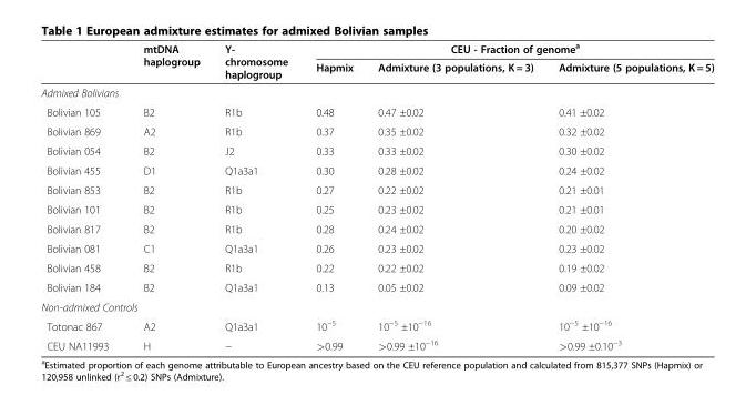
<table><thead><tr><td rowspan="2"></td><td rowspan="2">mtDNA haplogroup</td><td rowspan="2">Y- chromosome haplogroup</td><td colspan="3">CEU - Fraction of genome<sup>a</sup></td></tr><tr><td>Hapmix</td><td>Admixture (3 populations, K = 3)</td><td>Admixture (5 populations, K = 5)</td></tr></thead><tbody><tr><td colspan="6">Admixed Bolivians</td></tr><tr><td>Bolivian 105</td><td>B2</td><td>R1b</td><td>0.48</td><td>0.47 ±0.02</td><td>0.41 ±0.02</td></tr><tr><td>Bolivian 869</td><td>A2</td><td>R1b</td><td>0.37</td><td>0.35 ±0.02</td><td>0.32 ±0.02</td></tr><tr><td>Bolivian 054</td><td>B2</td><td>J2</td><td>0.33</td><td>0.33 ±0.02</td><td>0.30 ±0.02</td></tr><tr><td>Bolivian 455</td><td>D1</td><td>Q1a3a1</td><td>0.30</td><td>0.28 ±0.02</td><td>0.24 ±0.02</td></tr><tr><td>Bolivian 853</td><td>B2</td><td>R1b</td><td>0.27</td><td>0.22 ±0.02</td><td>0.21 ±0.01</td></tr><tr><td>Bolivian 101</td><td>B2</td><td>R1b</td><td>0.25</td><td>0.23 ±0.02</td><td>0.21 ±0.01</td></tr><tr><td>Bolivian 817</td><td>B2</td><td>R1b</td><td>0.28</td><td>0.24 ±0.02</td><td>0.20 ±0.02</td></tr><tr><td>Bolivian 081</td><td>C1</td><td>Q1a3a1</td><td>0.26</td><td>0.23 ±0.02</td><td>0.23 ±0.02</td></tr><tr><td>Bolivian 458</td><td>B2</td><td>R1b</td><td>0.22</td><td>0.22 ±0.02</td><td>0.19 ±0.02</td></tr><tr><td>Bolivian 184</td><td>B2</td><td>Q1a3a1</td><td>0.13</td><td>0.05 ±0.02</td><td>0.09 ±0.02</td></tr><tr><td colspan="6">Non-admixed Controls</td></tr><tr><td>Totonac 867</td><td>A2</td><td>Q1a3a1</td><td>10<sup>−5</sup></td><td>10<sup>−5</sup> ±10<sup>−16</sup></td><td>10<sup>−5</sup> ±10<sup>−16</sup></td></tr><tr><td>CEU NA11993</td><td>H</td><td>−</td><td>&gt;0.99</td><td>&gt;0.99 ±10<sup>−16</sup></td><td>&gt;0.99 ±0.10<sup>−3</sup></td></tr></tbody></table>